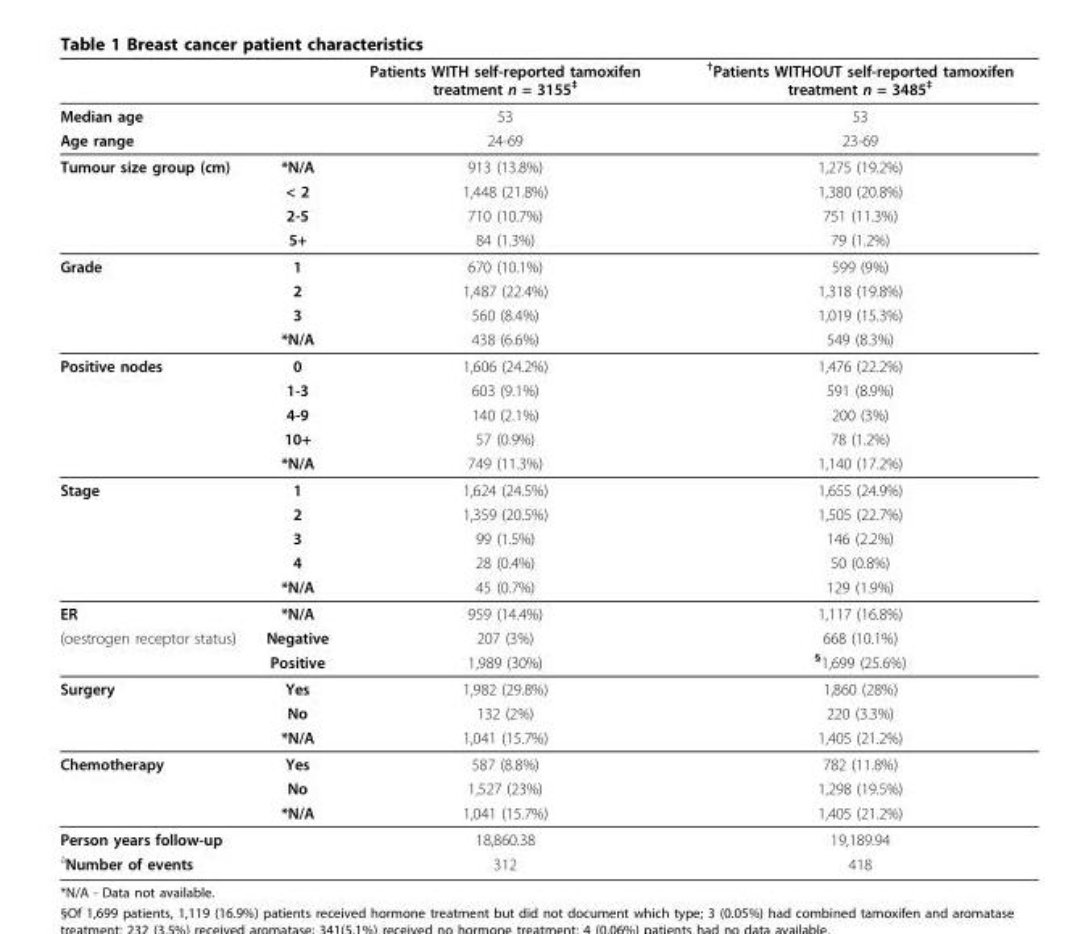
<table><thead><tr><td></td><td></td><td>Patients WITH self-reported tamoxifen treatment n = 3155<sup>‡</sup></td><td><sup>†</sup>Patients WITHOUT self-reported tamoxifen treatment n = 3485<sup>‡</sup></td></tr></thead><tbody><tr><td>Median age</td><td></td><td>53</td><td>53</td></tr><tr><td>Age range</td><td></td><td>24-69</td><td>23-69</td></tr><tr><td rowspan="4">Tumour size group (cm)</td><td>*N/A</td><td>913 (13.8%)</td><td>1,275 (19.2%)</td></tr><tr><td>&lt; 2</td><td>1,448 (21.8%)</td><td>1,380 (20.8%)</td></tr><tr><td>2-5</td><td>710 (10.7%)</td><td>751 (11.3%)</td></tr><tr><td>5+</td><td>84 (1.3%)</td><td>79 (1.2%)</td></tr><tr><td rowspan="4">Grade</td><td>1</td><td>670 (10.1%)</td><td>599 (9%)</td></tr><tr><td>2</td><td>1,487 (22.4%)</td><td>1,318 (19.8%)</td></tr><tr><td>3</td><td>560 (8.4%)</td><td>1,019 (15.3%)</td></tr><tr><td>*N/A</td><td>438 (6.6%)</td><td>549 (8.3%)</td></tr><tr><td rowspan="5">Positive nodes</td><td>0</td><td>1,606 (24.2%)</td><td>1,476 (22.2%)</td></tr><tr><td>1-3</td><td>603 (9.1%)</td><td>591 (8.9%)</td></tr><tr><td>4-9</td><td>140 (2.1%)</td><td>200 (3%)</td></tr><tr><td>10+</td><td>57 (0.9%)</td><td>78 (1.2%)</td></tr><tr><td>*N/A</td><td>749 (11.3%)</td><td>1,140 (17.2%)</td></tr><tr><td rowspan="5">Stage</td><td>1</td><td>1,624 (24.5%)</td><td>1,655 (24.9%)</td></tr><tr><td>2</td><td>1,359 (20.5%)</td><td>1,505 (22.7%)</td></tr><tr><td>3</td><td>99 (1.5%)</td><td>146 (2.2%)</td></tr><tr><td>4</td><td>28 (0.4%)</td><td>50 (0.8%)</td></tr><tr><td>*N/A</td><td>45 (0.7%)</td><td>129 (1.9%)</td></tr><tr><td>ER</td><td>*N/A</td><td>959 (14.4%)</td><td>1,117 (16.8%)</td></tr><tr><td rowspan="2">(oestrogen receptor status)</td><td>Negative</td><td>207 (3%)</td><td>668 (10.1%)</td></tr><tr><td>Positive</td><td>1,989 (30%)</td><td><sup>§</sup>1,699 (25.6%)</td></tr><tr><td rowspan="3">Surgery</td><td>Yes</td><td>1,982 (29.8%)</td><td>1,860 (28%)</td></tr><tr><td>No</td><td>132 (2%)</td><td>220 (3.3%)</td></tr><tr><td>*N/A</td><td>1,041 (15.7%)</td><td>1,405 (21.2%)</td></tr><tr><td rowspan="3">Chemotherapy</td><td>Yes</td><td>587 (8.8%)</td><td>782 (11.8%)</td></tr><tr><td>No</td><td>1,527 (23%)</td><td>1,298 (19.5%)</td></tr><tr><td>*N/A</td><td>1,041 (15.7%)</td><td>1,405 (21.2%)</td></tr><tr><td>Person years follow-up</td><td></td><td>18,860.38</td><td>19,189.94</td></tr><tr><td><sup>a</sup>Number of events</td><td></td><td>312</td><td>418</td></tr></tbody></table>